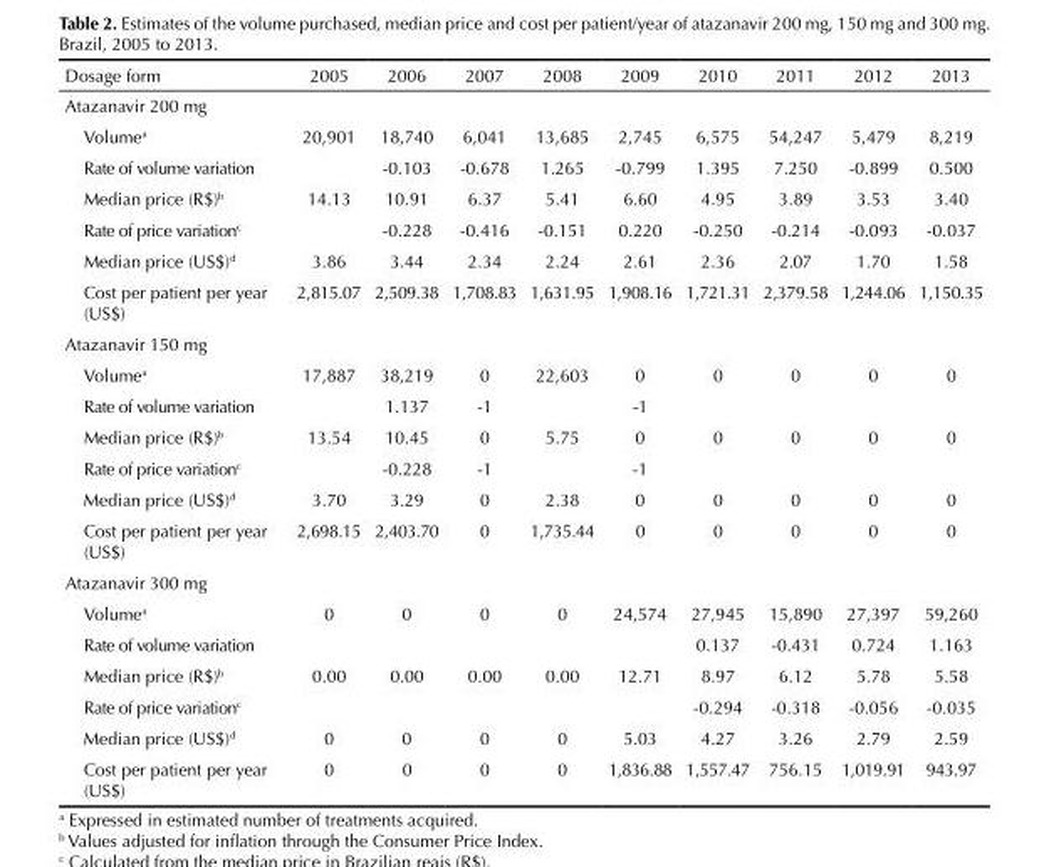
<table><thead><tr><td>Dosage form</td><td>2005</td><td>2006</td><td>2007</td><td>2008</td><td>2009</td><td>2010</td><td>2011</td><td>2012</td><td>2013</td></tr></thead><tbody><tr><td colspan="10">Atazanavir 200 mg</td></tr><tr><td>Volume<sup>a</sup></td><td>20,901</td><td>18,740</td><td>6,041</td><td>13,685</td><td>2,745</td><td>6,575</td><td>54,247</td><td>5,479</td><td>8,219</td></tr><tr><td>Rate of volume variation</td><td></td><td>-0.103</td><td>-0.678</td><td>1.265</td><td>-0.799</td><td>1.395</td><td>7.250</td><td>-0.899</td><td>0.500</td></tr><tr><td>Median price (R$)<sup>b</sup></td><td>14.13</td><td>10.91</td><td>6.37</td><td>5.41</td><td>6.60</td><td>4.95</td><td>3.89</td><td>3.53</td><td>3.40</td></tr><tr><td>Rate of price variation<sup>c</sup></td><td></td><td>-0.228</td><td>-0.416</td><td>-0.151</td><td>0.220</td><td>-0.250</td><td>-0.214</td><td>-0.093</td><td>-0.037</td></tr><tr><td>Median price (US$)<sup>d</sup></td><td>3.86</td><td>3.44</td><td>2.34</td><td>2.24</td><td>2.61</td><td>2.36</td><td>2.07</td><td>1.70</td><td>1.58</td></tr><tr><td>Cost per patient per year (US$)</td><td>2,815.07</td><td>2,509.38</td><td>1,708.83</td><td>1,631.95</td><td>1,908.16</td><td>1,721.31</td><td>2,379.58</td><td>1,244.06</td><td>1,150.35</td></tr><tr><td colspan="10">Atazanavir 150 mg</td></tr><tr><td>Volume<sup>a</sup></td><td>17,887</td><td>38,219</td><td>0</td><td>22,603</td><td>0</td><td>0</td><td>0</td><td>0</td><td>0</td></tr><tr><td>Rate of volume variation</td><td></td><td>1.137</td><td>-1</td><td></td><td>-1</td><td></td><td></td><td></td><td></td></tr><tr><td>Median price (R$)<sup>b</sup></td><td>13.54</td><td>10.45</td><td>0</td><td>5.75</td><td>0</td><td>0</td><td>0</td><td>0</td><td>0</td></tr><tr><td>Rate of price variation<sup>c</sup></td><td></td><td>-0.228</td><td>-1</td><td></td><td>-1</td><td></td><td></td><td></td><td></td></tr><tr><td>Median price (US$)<sup>d</sup></td><td>3.70</td><td>3.29</td><td>0</td><td>2.38</td><td>0</td><td>0</td><td>0</td><td>0</td><td>0</td></tr><tr><td>Cost per patient per year (US$)</td><td>2,698.15</td><td>2,403.70</td><td>0</td><td>1,735.44</td><td>0</td><td>0</td><td>0</td><td>0</td><td>0</td></tr><tr><td colspan="10">Atazanavir 300 mg</td></tr><tr><td>Volume<sup>a</sup></td><td>0</td><td>0</td><td>0</td><td>0</td><td>24,574</td><td>27,945</td><td>15,890</td><td>27,397</td><td>59,260</td></tr><tr><td>Rate of volume variation</td><td></td><td></td><td></td><td></td><td></td><td>0.137</td><td>-0.431</td><td>0.724</td><td>1.163</td></tr><tr><td>Median price (R$)<sup>b</sup></td><td>0.00</td><td>0.00</td><td>0.00</td><td>0.00</td><td>12.71</td><td>8.97</td><td>6.12</td><td>5.78</td><td>5.58</td></tr><tr><td>Rate of price variation<sup>c</sup></td><td></td><td></td><td></td><td></td><td></td><td>-0.294</td><td>-0.318</td><td>-0.056</td><td>-0.035</td></tr><tr><td>Median price (US$)<sup>d</sup></td><td>0</td><td>0</td><td>0</td><td>0</td><td>5.03</td><td>4.27</td><td>3.26</td><td>2.79</td><td>2.59</td></tr><tr><td>Cost per patient per year (US$)</td><td>0</td><td>0</td><td>0</td><td>0</td><td>1,836.88</td><td>1,557.47</td><td>756.15</td><td>1,019.91</td><td>943.97</td></tr></tbody></table>